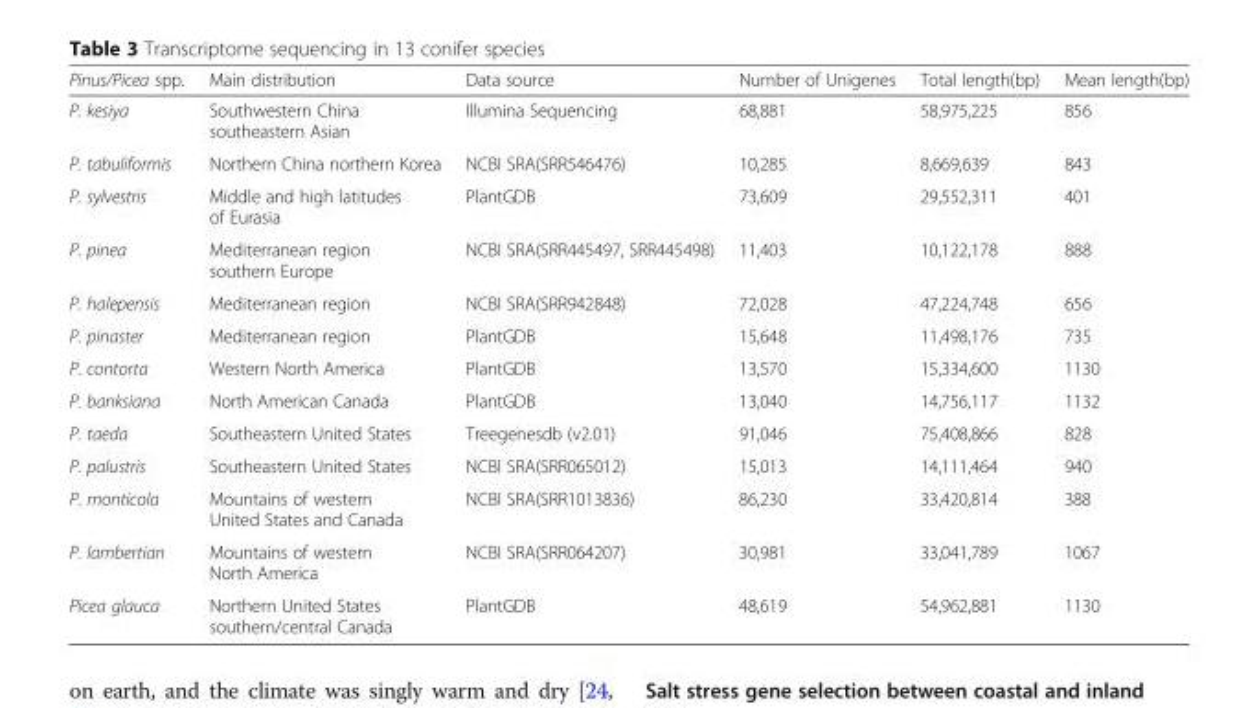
<table><thead><tr><td>Pinus/Picea spp.</td><td>Main distribution</td><td>Data source</td><td>Number of Unigenes</td><td>Total length(bp)</td><td>Mean length(bp)</td></tr></thead><tbody><tr><td>P. kesiya</td><td>Southwestern China southeastern Asian</td><td>Illumina Sequencing</td><td>68,881</td><td>58,975,225</td><td>856</td></tr><tr><td>P. tabuliformis</td><td>Northern China northern Korea</td><td>NCBI SRA(SRR546476)</td><td>10,285</td><td>8,669,639</td><td>843</td></tr><tr><td>P. sylvestris</td><td>Middle and high latitudes of Eurasia</td><td>PlantGDB</td><td>73,609</td><td>29,552,311</td><td>401</td></tr><tr><td>P. pinea</td><td>Mediterranean region southern Europe</td><td>NCBI SRA(SRR445497, SRR445498)</td><td>11,403</td><td>10,122,178</td><td>888</td></tr><tr><td>P. halepensis</td><td>Mediterranean region</td><td>NCBI SRA(SRR942848)</td><td>72,028</td><td>47,224,748</td><td>656</td></tr><tr><td>P. pinaster</td><td>Mediterranean region</td><td>PlantGDB</td><td>15,648</td><td>11,498,176</td><td>735</td></tr><tr><td>P. contorta</td><td>Western North America</td><td>PlantGDB</td><td>13,570</td><td>15,334,600</td><td>1130</td></tr><tr><td>P. banksiana</td><td>North American Canada</td><td>PlantGDB</td><td>13,040</td><td>14,756,117</td><td>1132</td></tr><tr><td>P. taeda</td><td>Southeastern United States</td><td>Treegenesdb (v2.01)</td><td>91,046</td><td>75,408,866</td><td>828</td></tr><tr><td>P. palustris</td><td>Southeastern United States</td><td>NCBI SRA(SRR065012)</td><td>15,013</td><td>14,111,464</td><td>940</td></tr><tr><td>P. monticola</td><td>Mountains of western United States and Canada</td><td>NCBI SRA(SRR1013836)</td><td>86,230</td><td>33,420,814</td><td>388</td></tr><tr><td>P. lambertian</td><td>Mountains of western North America</td><td>NCBI SRA(SRR064207)</td><td>30,981</td><td>33,041,789</td><td>1067</td></tr><tr><td>Picea glauca</td><td>Northern United States southern/central Canada</td><td>PlantGDB</td><td>48,619</td><td>54,962,881</td><td>1130</td></tr></tbody></table>